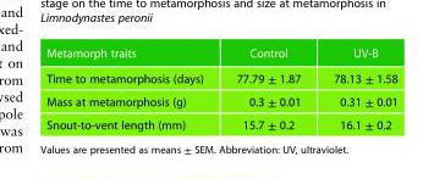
<table><thead><tr><td>Metamorph traits</td><td>Control</td><td>UV-B</td></tr></thead><tbody><tr><td>Time to metamorphosis (days)</td><td>77.79 ± 1.87</td><td>78.13 ± 1.58</td></tr><tr><td>Mass at metamorphosis (g)</td><td>0.3 ± 0.01</td><td>0.31 ± 0.01</td></tr><tr><td>Snout-to-vent length (mm)</td><td>15.7 ± 0.2</td><td>16.1 ± 0.2</td></tr></tbody></table>